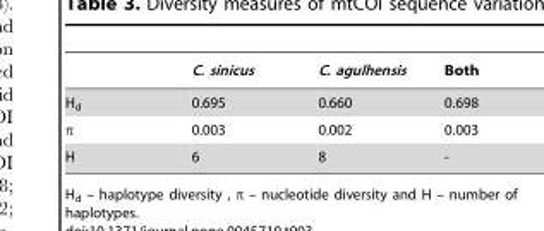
<table><thead><tr><td></td><td>C. sinicus</td><td>C. agulhensis</td><td>Both</td></tr></thead><tbody><tr><td>H<sub>d</sub></td><td>0.695</td><td>0.660</td><td>0.698</td></tr><tr><td>π</td><td>0.003</td><td>0.002</td><td>0.003</td></tr><tr><td>H</td><td>6</td><td>8</td><td>-</td></tr></tbody></table>